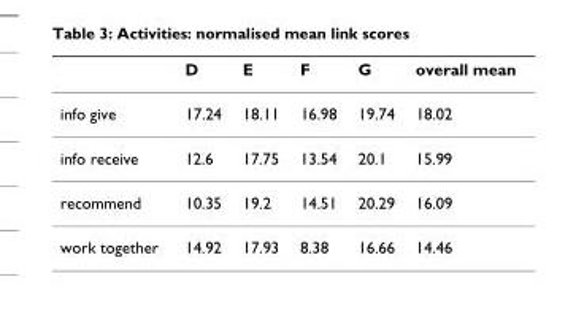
<table><thead><tr><td></td><td>D</td><td>E</td><td>F</td><td>G</td><td>overall mean</td></tr></thead><tbody><tr><td>info give</td><td>17.24</td><td>18.11</td><td>16.98</td><td>19.74</td><td>18.02</td></tr><tr><td>info receive</td><td>12.6</td><td>17.75</td><td>13.54</td><td>20.1</td><td>15.99</td></tr><tr><td>recommend</td><td>10.35</td><td>19.2</td><td>14.51</td><td>20.29</td><td>16.09</td></tr><tr><td>work together</td><td>14.92</td><td>17.93</td><td>8.38</td><td>16.66</td><td>14.46</td></tr></tbody></table>